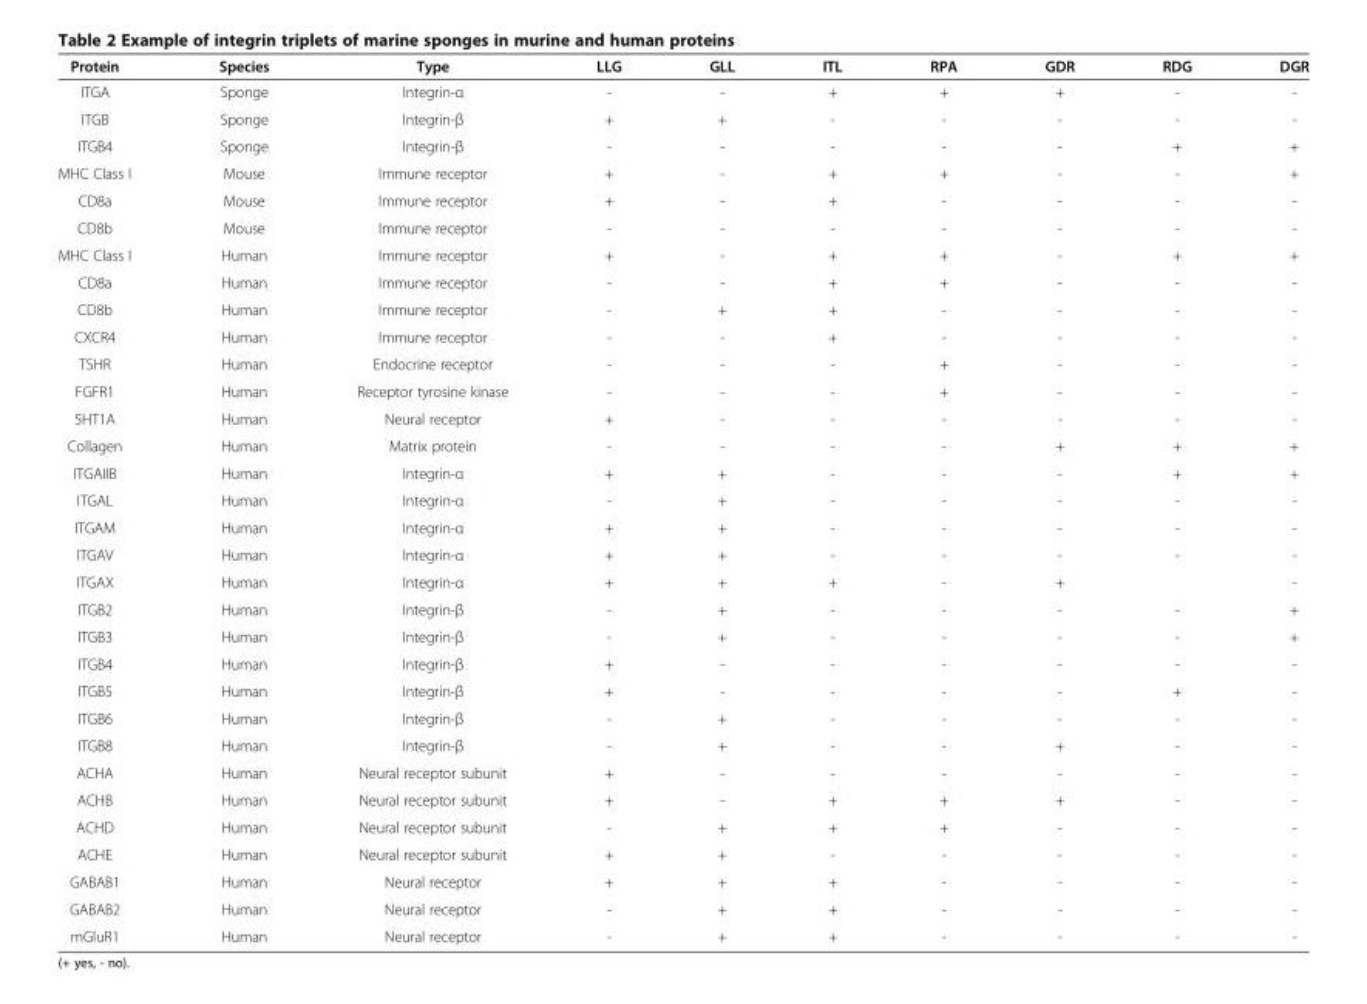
<table><thead><tr><td>Protein</td><td>Species</td><td>Type</td><td>LLG</td><td>GLL</td><td>ITL</td><td>RPA</td><td>GDR</td><td>RDG</td><td>DGR</td></tr></thead><tbody><tr><td>ITGA</td><td>Sponge</td><td>Integrin-α</td><td>-</td><td>-</td><td>+</td><td>+</td><td>+</td><td>-</td><td>-</td></tr><tr><td>ITGB</td><td>Sponge</td><td>Integrin-β</td><td>+</td><td>+</td><td>-</td><td>-</td><td>-</td><td>-</td><td>-</td></tr><tr><td>ITGB4</td><td>Sponge</td><td>Integrin-β</td><td>-</td><td>-</td><td>-</td><td>-</td><td>-</td><td>+</td><td>+</td></tr><tr><td>MHC Class I</td><td>Mouse</td><td>Immune receptor</td><td>+</td><td>-</td><td>+</td><td>+</td><td>-</td><td>-</td><td>+</td></tr><tr><td>CD8a</td><td>Mouse</td><td>Immune receptor</td><td>+</td><td>-</td><td>+</td><td>-</td><td>-</td><td>-</td><td>-</td></tr><tr><td>CD8b</td><td>Mouse</td><td>Immune receptor</td><td>-</td><td>-</td><td>-</td><td>-</td><td>-</td><td>-</td><td>-</td></tr><tr><td>MHC Class I</td><td>Human</td><td>Immune receptor</td><td>+</td><td>-</td><td>+</td><td>+</td><td>-</td><td>+</td><td>+</td></tr><tr><td>CD8a</td><td>Human</td><td>Immune receptor</td><td>-</td><td>-</td><td>+</td><td>+</td><td>-</td><td>-</td><td>-</td></tr><tr><td>CD8b</td><td>Human</td><td>Immune receptor</td><td>-</td><td>+</td><td>+</td><td>-</td><td>-</td><td>-</td><td>-</td></tr><tr><td>CXCR4</td><td>Human</td><td>Immune receptor</td><td>-</td><td>-</td><td>+</td><td>-</td><td>-</td><td>-</td><td>-</td></tr><tr><td>TSHR</td><td>Human</td><td>Endocrine receptor</td><td>-</td><td>-</td><td>-</td><td>+</td><td>-</td><td>-</td><td>-</td></tr><tr><td>FGFR1</td><td>Human</td><td>Receptor tyrosine kinase</td><td>-</td><td>-</td><td>-</td><td>+</td><td>-</td><td>-</td><td>-</td></tr><tr><td>5HT1A</td><td>Human</td><td>Neural receptor</td><td>+</td><td>-</td><td>-</td><td>-</td><td>-</td><td>-</td><td>-</td></tr><tr><td>Collagen</td><td>Human</td><td>Matrix protein</td><td>-</td><td>-</td><td>-</td><td>-</td><td>+</td><td>+</td><td>+</td></tr><tr><td>ITGAIIB</td><td>Human</td><td>Integrin-α</td><td>+</td><td>+</td><td>-</td><td>-</td><td>-</td><td>+</td><td>+</td></tr><tr><td>ITGAL</td><td>Human</td><td>Integrin-α</td><td>-</td><td>+</td><td>-</td><td>-</td><td>-</td><td>-</td><td>-</td></tr><tr><td>ITGAM</td><td>Human</td><td>Integrin-α</td><td>+</td><td>+</td><td>-</td><td>-</td><td>-</td><td>-</td><td>-</td></tr><tr><td>ITGAV</td><td>Human</td><td>Integrin-α</td><td>+</td><td>+</td><td>-</td><td>-</td><td>-</td><td>-</td><td>-</td></tr><tr><td>ITGAX</td><td>Human</td><td>Integrin-α</td><td>+</td><td>+</td><td>+</td><td>-</td><td>+</td><td></td><td>-</td></tr><tr><td>ITGB2</td><td>Human</td><td>Integrin-β</td><td>-</td><td>+</td><td>-</td><td>-</td><td>-</td><td>-</td><td>+</td></tr><tr><td>ITGB3</td><td>Human</td><td>Integrin-β</td><td>-</td><td>+</td><td>-</td><td>-</td><td>-</td><td>-</td><td>+</td></tr><tr><td>ITGB4</td><td>Human</td><td>Integrin-β</td><td>+</td><td>-</td><td>-</td><td>-</td><td>-</td><td>-</td><td>-</td></tr><tr><td>ITGB5</td><td>Human</td><td>Integrin-β</td><td>+</td><td>-</td><td>-</td><td>-</td><td>-</td><td>+</td><td>-</td></tr><tr><td>ITGB6</td><td>Human</td><td>Integrin-β</td><td>-</td><td>+</td><td>-</td><td>-</td><td>-</td><td>-</td><td>-</td></tr><tr><td>ITGB8</td><td>Human</td><td>Integrin-β</td><td>-</td><td>+</td><td>-</td><td>-</td><td>+</td><td>-</td><td>-</td></tr><tr><td>ACHA</td><td>Human</td><td>Neural receptor subunit</td><td>+</td><td>-</td><td>-</td><td>-</td><td>-</td><td>-</td><td>-</td></tr><tr><td>ACHB</td><td>Human</td><td>Neural receptor subunit</td><td>+</td><td>-</td><td>+</td><td>+</td><td>+</td><td>-</td><td>-</td></tr><tr><td>ACHD</td><td>Human</td><td>Neural receptor subunit</td><td>-</td><td>+</td><td>+</td><td>+</td><td>-</td><td>-</td><td>-</td></tr><tr><td>ACHE</td><td>Human</td><td>Neural receptor subunit</td><td>+</td><td>+</td><td>-</td><td>-</td><td>-</td><td>-</td><td>-</td></tr><tr><td>GABAB1</td><td>Human</td><td>Neural receptor</td><td>+</td><td>+</td><td>+</td><td>-</td><td>-</td><td>-</td><td>-</td></tr><tr><td>GABAB2</td><td>Human</td><td>Neural receptor</td><td>-</td><td>+</td><td>+</td><td>-</td><td>-</td><td>-</td><td>-</td></tr><tr><td>mGluR1</td><td>Human</td><td>Neural receptor</td><td>-</td><td>+</td><td>+</td><td>-</td><td>-</td><td>-</td><td>-</td></tr></tbody></table>